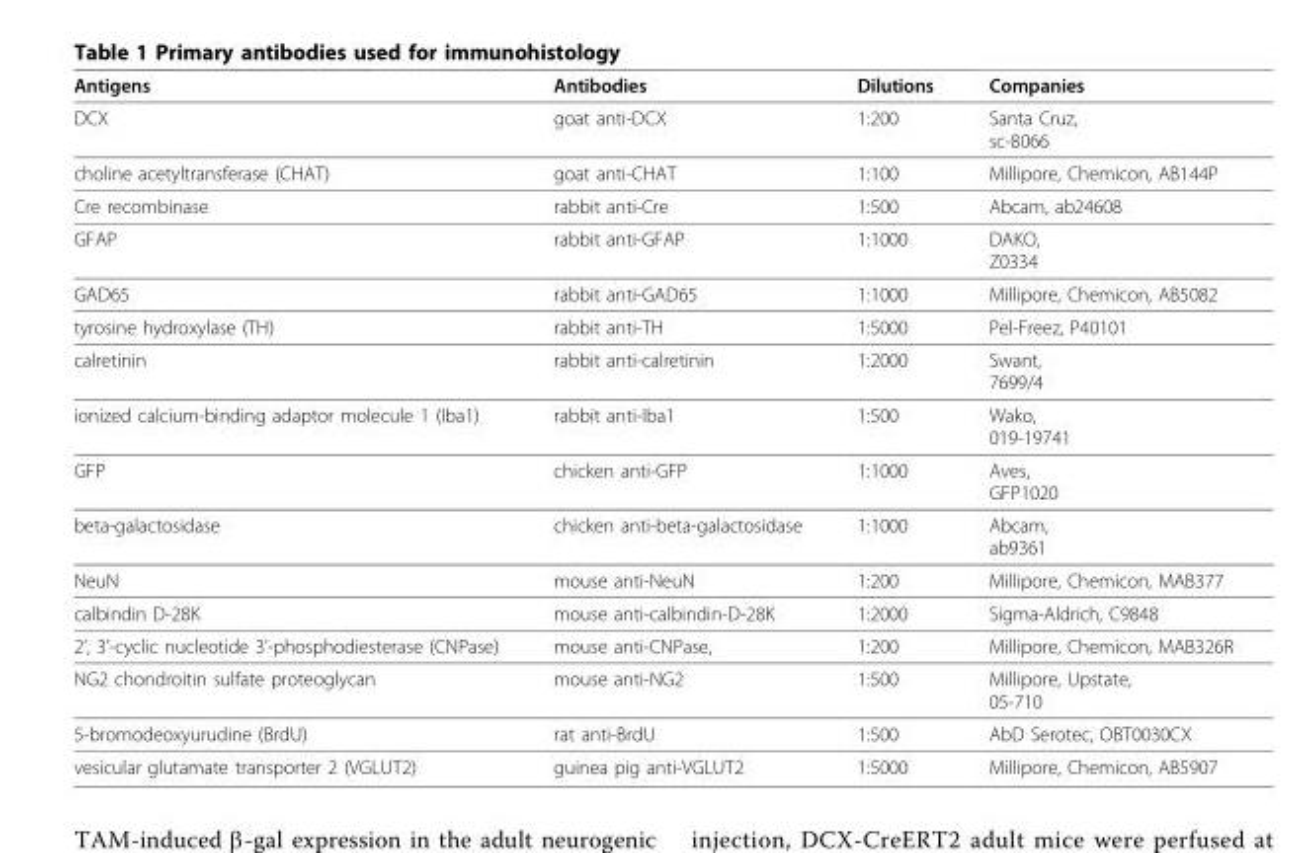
<table><thead><tr><td>Antigens</td><td>Antibodies</td><td>Dilutions</td><td>Companies</td></tr></thead><tbody><tr><td>DCX</td><td>goat anti-DCX</td><td>1:200</td><td>Santa Cruz, sc-8066</td></tr><tr><td>choline acetyltransferase (CHAT)</td><td>goat anti-CHAT</td><td>1:100</td><td>Millipore, Chemicon, AB144P</td></tr><tr><td>Cre recombinase</td><td>rabbit anti-Cre</td><td>1:500</td><td>Abcam, ab24608</td></tr><tr><td>GFAP</td><td>rabbit anti-GFAP</td><td>1:1000</td><td>DAKO, Z0334</td></tr><tr><td>GAD65</td><td>rabbit anti-GAD65</td><td>1:1000</td><td>Millipore, Chemicon, AB5082</td></tr><tr><td>tyrosine hydroxylase (TH)</td><td>rabbit anti-TH</td><td>1:5000</td><td>Pel-Freez, P40101</td></tr><tr><td>calretinin</td><td>rabbit anti-calretinin</td><td>1:2000</td><td>Swant, 7699/4</td></tr><tr><td>ionized calcium-binding adaptor molecule 1 (Iba1)</td><td>rabbit anti-Iba1</td><td>1:500</td><td>Wako, 019-19741</td></tr><tr><td>GFP</td><td>chicken anti-GFP</td><td>1:1000</td><td>Aves, GFP1020</td></tr><tr><td>beta-galactosidase</td><td>chicken anti-beta-galactosidase</td><td>1:1000</td><td>Abcam, ab9361</td></tr><tr><td>NeuN</td><td>mouse anti-NeuN</td><td>1:200</td><td>Millipore, Chemicon, MAB377</td></tr><tr><td>calbindin D-28K</td><td>mouse anti-calbindin-D-28K</td><td>1:2000</td><td>Sigma-Aldrich, C9848</td></tr><tr><td>2’, 3’-cyclic nucleotide 3’-phosphodiesterase (CNPase)</td><td>mouse anti-CNPase,</td><td>1:200</td><td>Millipore, Chemicon, MAB326R</td></tr><tr><td>NG2 chondroitin sulfate proteoglycan</td><td>mouse anti-NG2</td><td>1:500</td><td>Millipore, Upstate, 05-710</td></tr><tr><td>5-bromodeoxyurudine (BrdU)</td><td>rat anti-BrdU</td><td>1:500</td><td>AbD Serotec, OBT0030CX</td></tr><tr><td>vesicular glutamate transporter 2 (VGLUT2)</td><td>guinea pig anti-VGLUT2</td><td>1:5000</td><td>Millipore, Chemicon, AB5907</td></tr></tbody></table>